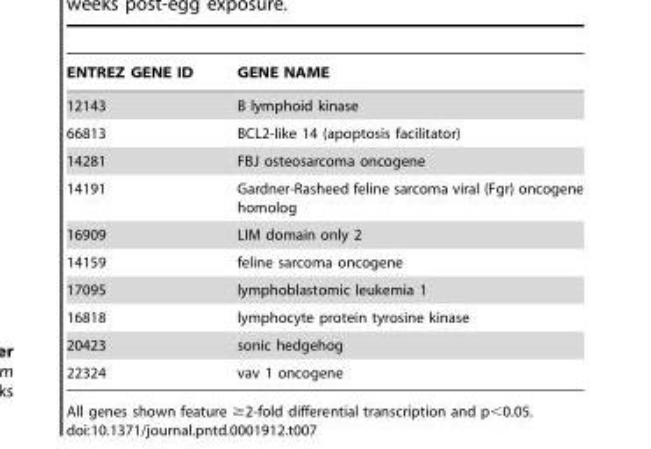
<table><thead><tr><td>ENTREZ GENE ID</td><td>GENE NAME</td></tr></thead><tbody><tr><td>12143</td><td>B lymphoid kinase</td></tr><tr><td>66813</td><td>BCL2-like 14 (apoptosis facilitator)</td></tr><tr><td>14281</td><td>FBJ osteosarcoma oncogene</td></tr><tr><td>14191</td><td>Gardner-Rasheed feline sarcoma viral (Fgr) oncogene homolog</td></tr><tr><td>16909</td><td>LIM domain only 2</td></tr><tr><td>14159</td><td>feline sarcoma oncogene</td></tr><tr><td>17095</td><td>lymphoblastomic leukemia 1</td></tr><tr><td>16818</td><td>lymphocyte protein tyrosine kinase</td></tr><tr><td>20423</td><td>sonic hedgehog</td></tr><tr><td>22324</td><td>vav 1 oncogene</td></tr></tbody></table>